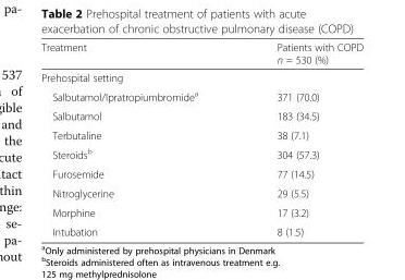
<table><thead><tr><td>Treatment</td><td>Patients with COPD n = 530 (%)</td></tr></thead><tbody><tr><td colspan="2">Prehospital setting</td></tr><tr><td>Salbutamol/Ipratropiumbromide<sup>a</sup></td><td>371 (70.0)</td></tr><tr><td>Salbutamol</td><td>183 (34.5)</td></tr><tr><td>Terbutaline</td><td>38 (7.1)</td></tr><tr><td>Steroids<sup>b</sup></td><td>304 (57.3)</td></tr><tr><td>Furosemide</td><td>77 (14.5)</td></tr><tr><td>Nitroglycerine</td><td>29 (5.5)</td></tr><tr><td>Morphine</td><td>17 (3.2)</td></tr><tr><td>Intubation</td><td>8 (1.5)</td></tr></tbody></table>